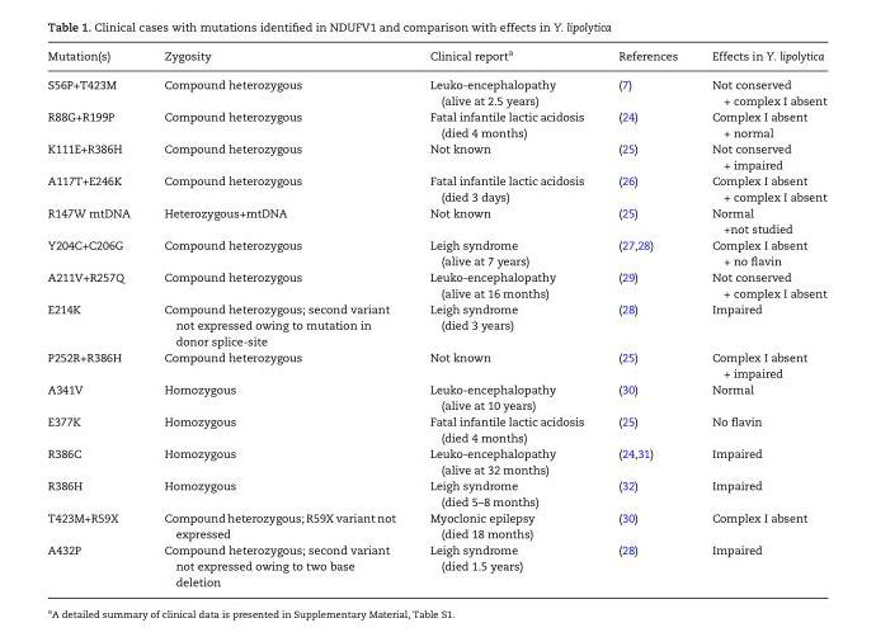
<table><thead><tr><td>Mutation(s)</td><td>Zygosity</td><td>Clinical reporta</td><td>References</td><td>Effects in Y. lipolytica</td></tr></thead><tbody><tr><td>S56P+T423M</td><td>Compound heterozygous</td><td>Leuko-encephalopathy (alive at 2.5 years)</td><td>(7)</td><td>Not conserved + complex I absent</td></tr><tr><td>R88G+R199P</td><td>Compound heterozygous</td><td>Fatal infantile lactic acidosis (died 4 months)</td><td>(24)</td><td>Complex I absent + normal</td></tr><tr><td>K111E+R386H</td><td>Compound heterozygous</td><td>Not known</td><td>(25)</td><td>Not conserved + impaired</td></tr><tr><td>A117T+E246K</td><td>Compound heterozygous</td><td>Fatal infantile lactic acidosis (died 3 days)</td><td>(26)</td><td>Complex I absent + complex I absent</td></tr><tr><td>R147W mtDNA</td><td>Heterozygous+mtDNA</td><td>Not known</td><td>(25)</td><td>Normal +not studied</td></tr><tr><td>Y204C+C206G</td><td>Compound heterozygous</td><td>Leigh syndrome (alive at 7 years)</td><td>(27,28)</td><td>Complex I absent + no flavin</td></tr><tr><td>A211V+R257Q</td><td>Compound heterozygous</td><td>Leuko-encephalopathy (alive at 16 months)</td><td>(29)</td><td>Not conserved + complex I absent</td></tr><tr><td>E214K</td><td>Compound heterozygous; second variant not expressed owing to mutation in donor splice-site</td><td>Leigh syndrome (died 3 years)</td><td>(28)</td><td>Impaired</td></tr><tr><td>P252R+R386H</td><td>Compound heterozygous</td><td>Not known</td><td>(25)</td><td>Complex I absent + impaired</td></tr><tr><td>A341V</td><td>Homozygous</td><td>Leuko-encephalopathy (alive at 10 years)</td><td>(30)</td><td>Normal</td></tr><tr><td>E377K</td><td>Homozygous</td><td>Fatal infantile lactic acidosis (died 4 months)</td><td>(25)</td><td>No flavin</td></tr><tr><td>R386C</td><td>Homozygous</td><td>Leuko-encephalopathy (alive at 32 months)</td><td>(24,31)</td><td>Impaired</td></tr><tr><td>R386H</td><td>Homozygous</td><td>Leigh syndrome (died 5–8 months)</td><td>(32)</td><td>Impaired</td></tr><tr><td>T423M+R59X</td><td>Compound heterozygous; R59X variant not expressed</td><td>Myoclonic epilepsy (died 18 months)</td><td>(30)</td><td>Complex I absent</td></tr><tr><td>A432P</td><td>Compound heterozygous; second variant not expressed owing to two base deletion</td><td>Leigh syndrome (died 1.5 years)</td><td>(28)</td><td>Impaired</td></tr></tbody></table>